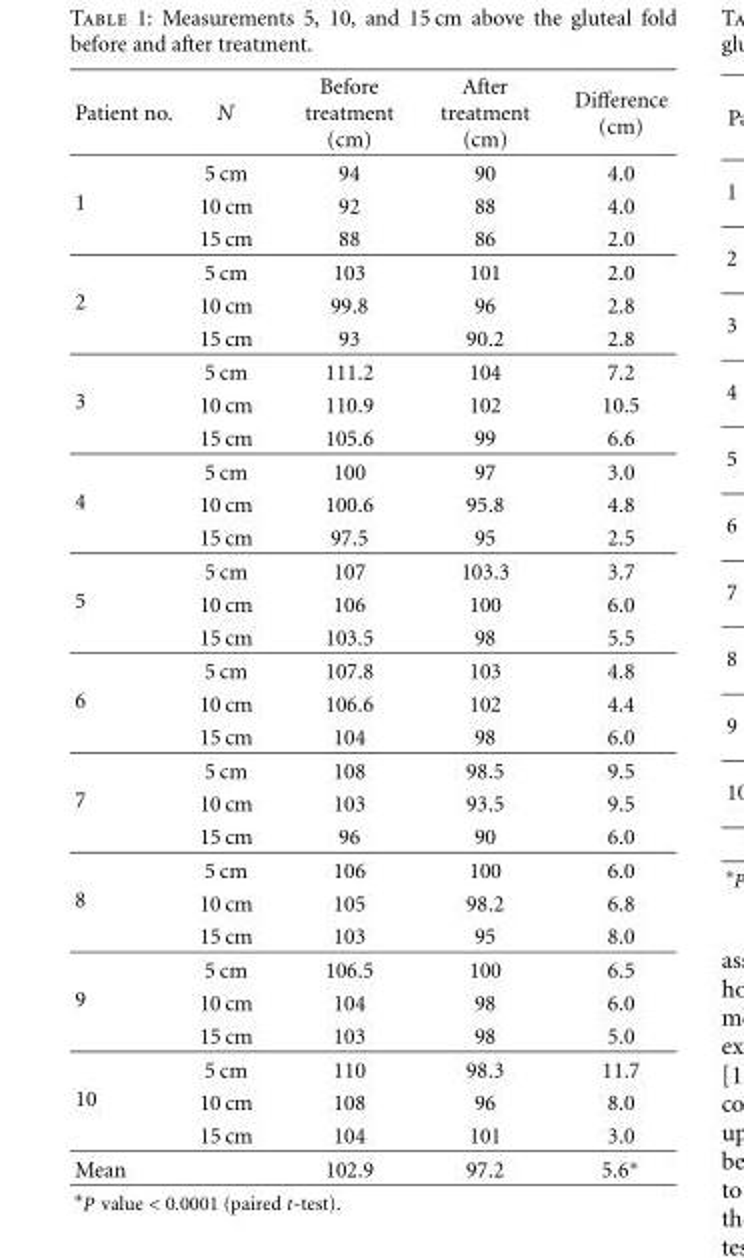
<table><thead><tr><td>Patient no.</td><td>N</td><td>Before treatment (cm)</td><td>After treatment (cm)</td><td>Difference (cm)</td></tr></thead><tbody><tr><td rowspan="3">1</td><td>5 cm</td><td>94</td><td>90</td><td>4.0</td></tr><tr><td>10 cm</td><td>92</td><td>88</td><td>4.0</td></tr><tr><td>15 cm</td><td>88</td><td>86</td><td>2.0</td></tr><tr><td rowspan="3">2</td><td>5 cm</td><td>103</td><td>101</td><td>2.0</td></tr><tr><td>10 cm</td><td>99.8</td><td>96</td><td>2.8</td></tr><tr><td>15 cm</td><td>93</td><td>90.2</td><td>2.8</td></tr><tr><td rowspan="3">3</td><td>5 cm</td><td>111.2</td><td>104</td><td>7.2</td></tr><tr><td>10 cm</td><td>110.9</td><td>102</td><td>10.5</td></tr><tr><td>15 cm</td><td>105.6</td><td>99</td><td>6.6</td></tr><tr><td rowspan="3">4</td><td>5 cm</td><td>100</td><td>97</td><td>3.0</td></tr><tr><td>10 cm</td><td>100.6</td><td>95.8</td><td>4.8</td></tr><tr><td>15 cm</td><td>97.5</td><td>95</td><td>2.5</td></tr><tr><td rowspan="3">5</td><td>5 cm</td><td>107</td><td>103.3</td><td>3.7</td></tr><tr><td>10 cm</td><td>106</td><td>100</td><td>6.0</td></tr><tr><td>15 cm</td><td>103.5</td><td>98</td><td>5.5</td></tr><tr><td rowspan="3">6</td><td>5 cm</td><td>107.8</td><td>103</td><td>4.8</td></tr><tr><td>10 cm</td><td>106.6</td><td>102</td><td>4.4</td></tr><tr><td>15 cm</td><td>104</td><td>98</td><td>6.0</td></tr><tr><td rowspan="3">7</td><td>5 cm</td><td>108</td><td>98.5</td><td>9.5</td></tr><tr><td>10 cm</td><td>103</td><td>93.5</td><td>9.5</td></tr><tr><td>15 cm</td><td>96</td><td>90</td><td>6.0</td></tr><tr><td rowspan="3">8</td><td>5 cm</td><td>106</td><td>100</td><td>6.0</td></tr><tr><td>10 cm</td><td>105</td><td>98.2</td><td>6.8</td></tr><tr><td>15 cm</td><td>103</td><td>95</td><td>8.0</td></tr><tr><td rowspan="3">9</td><td>5 cm</td><td>106.5</td><td>100</td><td>6.5</td></tr><tr><td>10 cm</td><td>104</td><td>98</td><td>6.0</td></tr><tr><td>15 cm</td><td>103</td><td>98</td><td>5.0</td></tr><tr><td rowspan="3">10</td><td>5 cm</td><td>110</td><td>98.3</td><td>11.7</td></tr><tr><td>10 cm</td><td>108</td><td>96</td><td>8.0</td></tr><tr><td>15 cm</td><td>104</td><td>101</td><td>3.0</td></tr><tr><td>Mean</td><td></td><td>102.9</td><td>97.2</td><td>5.6∗</td></tr></tbody></table>